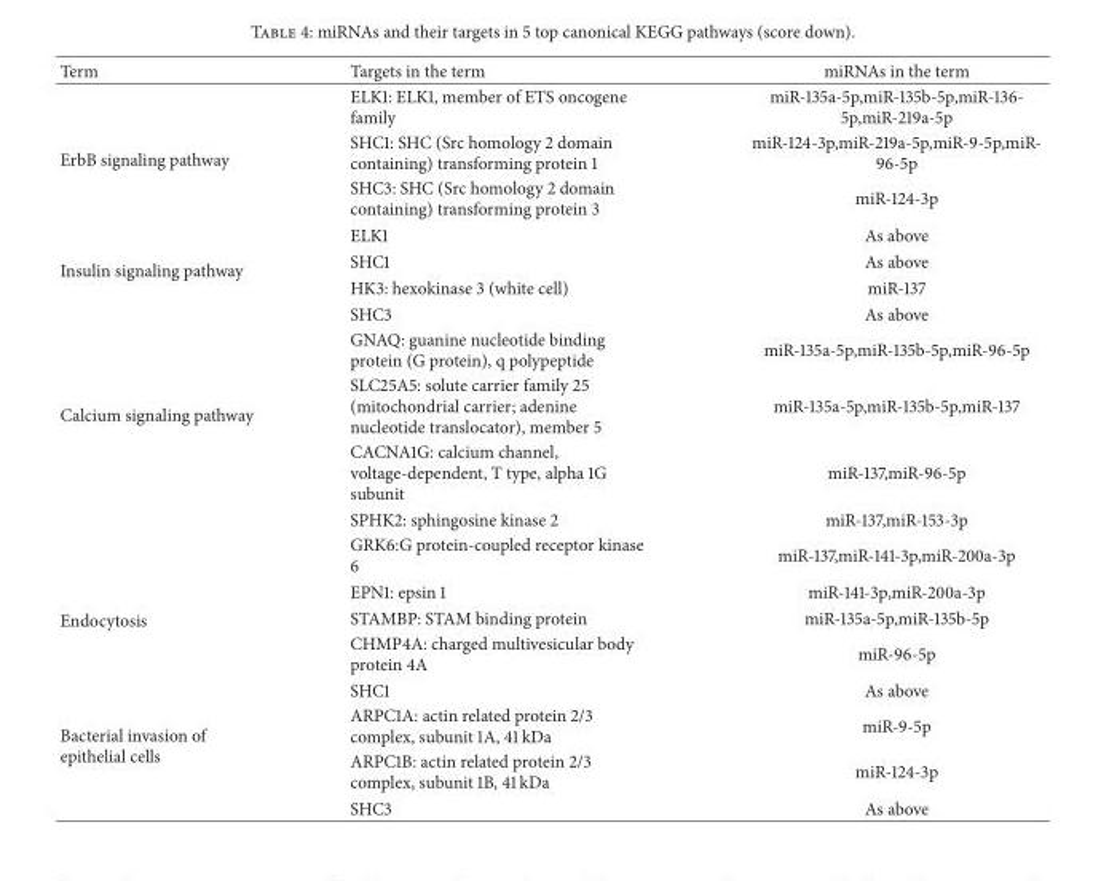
<table><thead><tr><td>Term</td><td>Targets in the term</td><td>miRNAs in the term</td></tr></thead><tbody><tr><td rowspan="3">ErbB signaling pathway</td><td>ELK1: ELK1, member of ETS oncogene family</td><td>miR-135a-5p,miR-135b-5p,miR-136- 5p,miR-219a-5p</td></tr><tr><td>SHC1: SHC (Src homology 2 domain containing) transforming protein 1</td><td>miR-124-3p,miR-219a-5p,miR-9-5p,miR- 96-5p</td></tr><tr><td>SHC3: SHC (Src homology 2 domain containing) transforming protein 3</td><td>miR-124-3p</td></tr><tr><td rowspan="4">Insulin signaling pathway</td><td>ELK1</td><td>As above</td></tr><tr><td>SHC1</td><td>As above</td></tr><tr><td>HK3: hexokinase 3 (white cell)</td><td>miR-137</td></tr><tr><td>SHC3</td><td>As above</td></tr><tr><td rowspan="4">Calcium signaling pathway</td><td>GNAQ: guanine nucleotide binding protein (G protein), q polypeptide</td><td>miR-135a-5p,miR-135b-5p,miR-96-5p</td></tr><tr><td>SLC25A5: solute carrier family 25 (mitochondrial carrier; adenine nucleotide translocator), member 5</td><td>miR-135a-5p,miR-135b-5p,miR-137</td></tr><tr><td>CACNA1G: calcium channel, voltage-dependent, T type, alpha 1G subunit</td><td>miR-137,miR-96-5p</td></tr><tr><td>SPHK2: sphingosine kinase 2</td><td>miR-137,miR-153-3p</td></tr><tr><td rowspan="4">Endocytosis</td><td>GRK6:G protein-coupled receptor kinase 6</td><td>miR-137,miR-141-3p,miR-200a-3p</td></tr><tr><td>EPN1: epsin 1</td><td>miR-141-3p,miR-200a-3p</td></tr><tr><td>STAMBP: STAM binding protein</td><td>miR-135a-5p,miR-135b-5p</td></tr><tr><td>CHMP4A: charged multivesicular body protein 4A</td><td>miR-96-5p</td></tr><tr><td rowspan="4">Bacterial invasion of epithelial cells</td><td>SHC1</td><td>As above</td></tr><tr><td>ARPC1A: actin related protein 2/3 complex, subunit 1A, 41 kDa</td><td>miR-9-5p</td></tr><tr><td>ARPC1B: actin related protein 2/3 complex, subunit 1B, 41 kDa</td><td>miR-124-3p</td></tr><tr><td>SHC3</td><td>As above</td></tr></tbody></table>